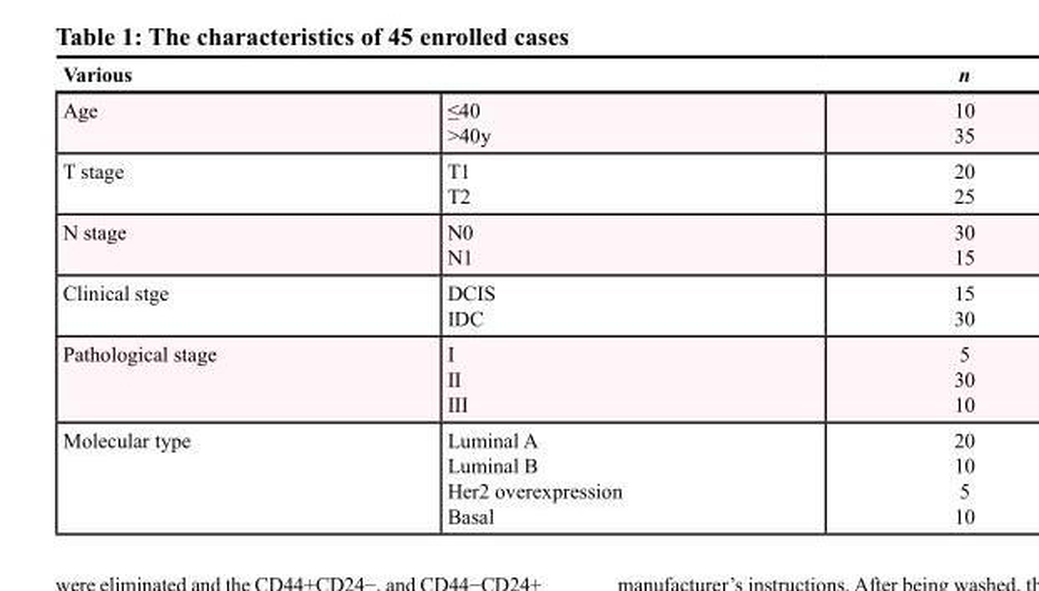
<table><thead><tr><td>Various</td><td></td><td>n</td></tr></thead><tbody><tr><td>Age</td><td>≤40 &gt;40y</td><td>10 35</td></tr><tr><td>T stage</td><td>T1 T2</td><td>20 25</td></tr><tr><td>N stage</td><td>N0 N1</td><td>30 15</td></tr><tr><td>Clinical stge</td><td>DCIS IDC</td><td>15 30</td></tr><tr><td>Pathological stage</td><td>I II III</td><td>5 30 10</td></tr><tr><td>Molecular type</td><td>Luminal A Luminal B Her2 overexpression Basal</td><td>20 10 5 10</td></tr></tbody></table>